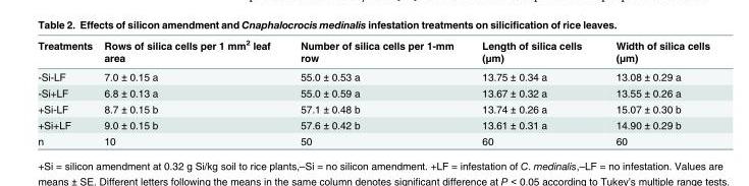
<table><thead><tr><td>Treatments</td><td>Rows of silica cells per 1 mm<sup>2</sup> leaf area</td><td>Number of silica cells per 1-mm row</td><td>Length of silica cells (μm)</td><td>Width of silica cells (μm)</td></tr></thead><tbody><tr><td>-Si-LF</td><td>7.0 ± 0.15 a</td><td>55.0 ± 0.53 a</td><td>13.75 ± 0.34 a</td><td>13.08 ± 0.29 a</td></tr><tr><td>-Si+LF</td><td>6.8 ± 0.13 a</td><td>55.0 ± 0.59 a</td><td>13.67 ± 0.32 a</td><td>13.55 ± 0.26 a</td></tr><tr><td>+Si-LF</td><td>8.7 ± 0.15 b</td><td>57.1 ± 0.48 b</td><td>13.74 ± 0.26 a</td><td>15.07 ± 0.30 b</td></tr><tr><td>+Si+LF</td><td>9.0 ± 0.15 b</td><td>57.6 ± 0.42 b</td><td>13.61 ± 0.31 a</td><td>14.90 ± 0.29 b</td></tr><tr><td>n</td><td>10</td><td>50</td><td>60</td><td>60</td></tr></tbody></table>